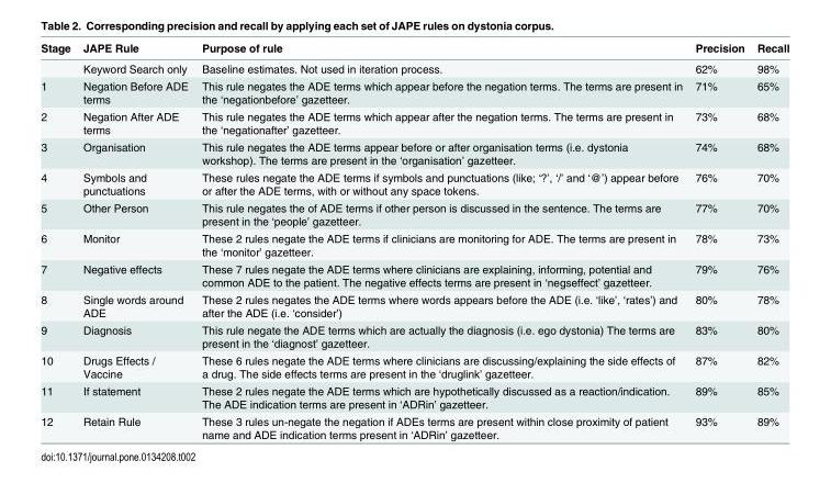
<table><thead><tr><td>Stage</td><td>JAPE Rule</td><td>Purpose of rule</td><td>Precision</td><td>Recall</td></tr></thead><tbody><tr><td></td><td>Keyword Search only</td><td>Baseline estimates. Not used in iteration process.</td><td>62%</td><td>98%</td></tr><tr><td>1</td><td>Negation Before ADE terms</td><td>This rule negates the ADE terms which appear before the negation terms. The terms are present in the ‘negationbefore’ gazetteer.</td><td>71%</td><td>65%</td></tr><tr><td>2</td><td>Negation After ADE terms</td><td>This rule negates the ADE terms which appear after the negation terms. The terms are present in the ‘negationafter’ gazetteer.</td><td>73%</td><td>68%</td></tr><tr><td>3</td><td>Organisation</td><td>This rule negates the ADE terms appear before or after organisation terms (i.e. dystonia workshop). The terms are present in the ‘organisation’ gazetteer.</td><td>74%</td><td>68%</td></tr><tr><td>4</td><td>Symbols and punctuations</td><td>These rules negate the ADE terms if symbols and punctuations (like; ‘?’, ‘/’ and ‘@’) appear before or after the ADE terms, with or without any space tokens.</td><td>76%</td><td>70%</td></tr><tr><td>5</td><td>Other Person</td><td>This rule negates the of ADE terms if other person is discussed in the sentence. The terms are present in the ‘people’ gazetteer.</td><td>77%</td><td>70%</td></tr><tr><td>6</td><td>Monitor</td><td>These 2 rules negate the ADE terms if clinicians are monitoring for ADE. The terms are present in the ‘monitor’ gazetteer.</td><td>78%</td><td>73%</td></tr><tr><td>7</td><td>Negative effects</td><td>These 7 rules negate the ADE terms where clinicians are explaining, informing, potential and common ADE to the patient. The negative effects terms are present in ‘negseffect’ gazetteer.</td><td>79%</td><td>76%</td></tr><tr><td>8</td><td>Single words around ADE</td><td>These 2 rules negates the ADE terms where words appears before the ADE (i.e. ‘like’, ‘rates’) and after the ADE (i.e. ‘consider’)</td><td>80%</td><td>78%</td></tr><tr><td>9</td><td>Diagnosis</td><td>This rule negate the ADE terms which are actually the diagnosis (i.e. ego dystonia) The terms are present in the ‘diagnost’ gazetteer.</td><td>83%</td><td>80%</td></tr><tr><td>10</td><td>Drugs Effects / Vaccine</td><td>These 6 rules negate the ADE terms where clinicians are discussing/explaining the side effects of a drug. The side effects terms are present in the ‘druglink’ gazetteer.</td><td>87%</td><td>82%</td></tr><tr><td>11</td><td>If statement</td><td>These 2 rules negate the ADE terms which are hypothetically discussed as a reaction/indication. The ADE indication terms are present in ‘ADRin’ gazetteer.</td><td>89%</td><td>85%</td></tr><tr><td>12</td><td>Retain Rule</td><td>These 3 rules un-negate the negation if ADEs terms are present within close proximity of patient name and ADE indication terms present in ‘ADRin’ gazetteer.</td><td>93%</td><td>89%</td></tr></tbody></table>